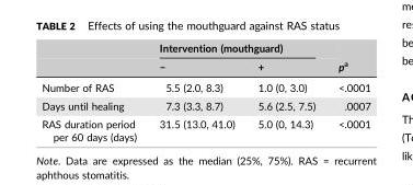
<table><thead><tr><td rowspan="2"></td><td colspan="2">Intervention (mouthguard)</td><td rowspan="2">pa</td></tr><tr><td>−</td><td>+</td></tr></thead><tbody><tr><td>Number of RAS</td><td>5.5 (2.0, 8.3)</td><td>1.0 (0, 3.0)</td><td>&lt;.0001</td></tr><tr><td>Days until healing</td><td>7.3 (3.3, 8.7)</td><td>5.6 (2.5, 7.5)</td><td>.0007</td></tr><tr><td>RAS duration period per 60 days (days)</td><td>31.5 (13.0, 41.0)</td><td>5.0 (0, 14.3)</td><td>&lt;.0001</td></tr></tbody></table>